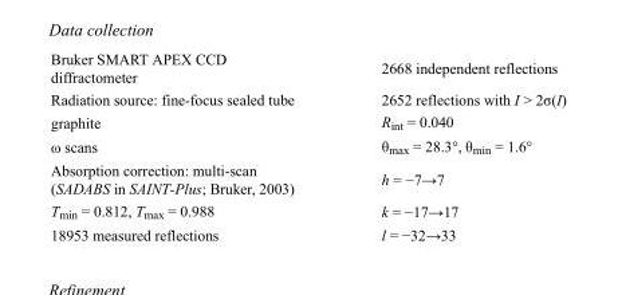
<table><tbody><tr><td>Bruker SMART APEX CCD diffractometer</td><td>2668 independent reflections</td></tr><tr><td>Radiation source: fine-focus sealed tube</td><td>2652 reflections with I &gt; 2σ(I)</td></tr><tr><td>graphite</td><td>R<sub>int</sub> = 0.040</td></tr><tr><td>ω scans</td><td>θ<sub>max</sub> = 28.3°, θ<sub>min</sub> = 1.6°</td></tr><tr><td>Absorption correction: multi-scan (SADABS in SAINT-Plus; Bruker, 2003)</td><td>h = −7→7</td></tr><tr><td>T<sub>min</sub> = 0.812, T<sub>max</sub> = 0.988</td><td>k = −17→17</td></tr><tr><td>18953 measured reflections</td><td>l = −32→33</td></tr></tbody></table>